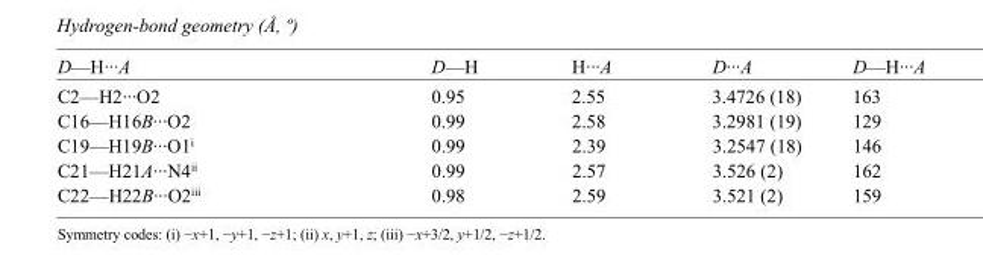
<table><tbody><tr><td>D—H···A</td><td>D—H</td><td>H···A</td><td>D···A</td><td>D—H···A</td></tr><tr><td>C2—H2···O2</td><td>0.95</td><td>2.55</td><td>3.4726 (18)</td><td>163</td></tr><tr><td>C16—H16B···O2</td><td>0.99</td><td>2.58</td><td>3.2981 (19)</td><td>129</td></tr><tr><td>C19—H19B···O1<sup>i</sup></td><td>0.99</td><td>2.39</td><td>3.2547 (18)</td><td>146</td></tr><tr><td>C21—H21A···N4<sup>ii</sup></td><td>0.99</td><td>2.57</td><td>3.526 (2)</td><td>162</td></tr><tr><td>C22—H22B···O2<sup>iii</sup></td><td>0.98</td><td>2.59</td><td>3.521 (2)</td><td>159</td></tr></tbody></table>